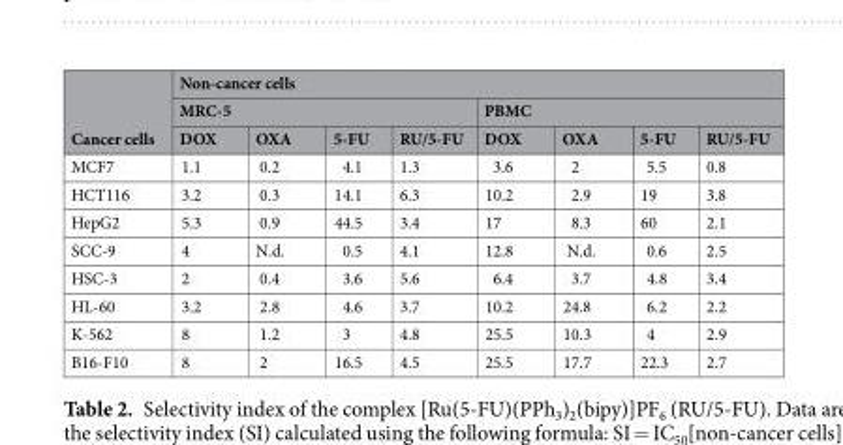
<table><thead><tr><td rowspan="3">Cancer cells</td><td colspan="8">Non-cancer cells</td></tr><tr><td colspan="4">MRC-5</td><td colspan="4">PBMC</td></tr><tr><td>DOX</td><td>OXA</td><td>5-FU</td><td>RU/5-FU</td><td>DOX</td><td>OXA</td><td>5-FU</td><td>RU/5-FU</td></tr></thead><tbody><tr><td>MCF7</td><td>1.1</td><td>0.2</td><td>4.1</td><td>1.3</td><td>3.6</td><td>2</td><td>5.5</td><td>0.8</td></tr><tr><td>HCT116</td><td>3.2</td><td>0.3</td><td>14.1</td><td>6.3</td><td>10.2</td><td>2.9</td><td>19</td><td>3.8</td></tr><tr><td>HepG2</td><td>5.3</td><td>0.9</td><td>44.5</td><td>3.4</td><td>17</td><td>8.3</td><td>60</td><td>2.1</td></tr><tr><td>SCC-9</td><td>4</td><td>N.d.</td><td>0.5</td><td>4.1</td><td>12.8</td><td>N.d.</td><td>0.6</td><td>2.5</td></tr><tr><td>HSC-3</td><td>2</td><td>0.4</td><td>3.6</td><td>5.6</td><td>6.4</td><td>3.7</td><td>4.8</td><td>3.4</td></tr><tr><td>HL-60</td><td>3.2</td><td>2.8</td><td>4.6</td><td>3.7</td><td>10.2</td><td>24.8</td><td>6.2</td><td>2.2</td></tr><tr><td>K-562</td><td>8</td><td>1.2</td><td>3</td><td>4.8</td><td>25.5</td><td>10.3</td><td>4</td><td>2.9</td></tr><tr><td>B16-F10</td><td>8</td><td>2</td><td>16.5</td><td>4.5</td><td>25.5</td><td>17.7</td><td>22.3</td><td>2.7</td></tr></tbody></table>